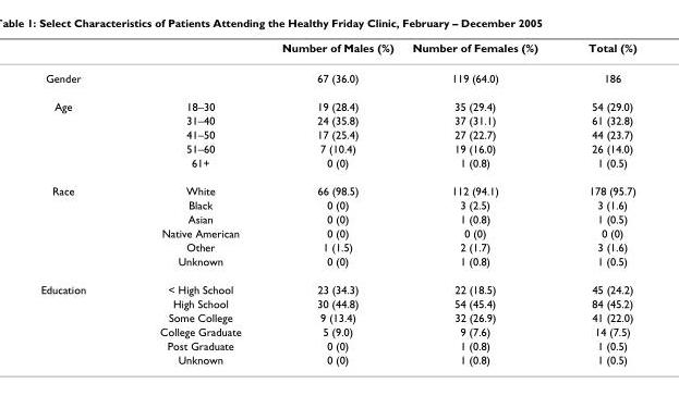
<table><thead><tr><td></td><td></td><td>Number of Males (%)</td><td>Number of Females (%)</td><td>Total (%)</td></tr></thead><tbody><tr><td>Gender</td><td></td><td>67 (36.0)</td><td>119 (64.0)</td><td>186</td></tr><tr><td rowspan="5">Age</td><td>18–30</td><td>19 (28.4)</td><td>35 (29.4)</td><td>54 (29.0)</td></tr><tr><td>31–40</td><td>24 (35.8)</td><td>37 (31.1)</td><td>61 (32.8)</td></tr><tr><td>41–50</td><td>17 (25.4)</td><td>27 (22.7)</td><td>44 (23.7)</td></tr><tr><td>51–60</td><td>7 (10.4)</td><td>19 (16.0)</td><td>26 (14.0)</td></tr><tr><td>61+</td><td>0 (0)</td><td>1 (0.8)</td><td>1 (0.5)</td></tr><tr><td rowspan="6">Race</td><td>White</td><td>66 (98.5)</td><td>112 (94.1)</td><td>178 (95.7)</td></tr><tr><td>Black</td><td>0 (0)</td><td>3 (2.5)</td><td>3 (1.6)</td></tr><tr><td>Asian</td><td>0 (0)</td><td>1 (0.8)</td><td>1 (0.5)</td></tr><tr><td>Native American</td><td>0 (0)</td><td>0 (0)</td><td>0 (0)</td></tr><tr><td>Other</td><td>1 (1.5)</td><td>2 (1.7)</td><td>3 (1.6)</td></tr><tr><td>Unknown</td><td>0 (0)</td><td>1 (0.8)</td><td>1 (0.5)</td></tr><tr><td rowspan="6">Education</td><td>&lt; High School</td><td>23 (34.3)</td><td>22 (18.5)</td><td>45 (24.2)</td></tr><tr><td>High School</td><td>30 (44.8)</td><td>54 (45.4)</td><td>84 (45.2)</td></tr><tr><td>Some College</td><td>9 (13.4)</td><td>32 (26.9)</td><td>41 (22.0)</td></tr><tr><td>College Graduate</td><td>5 (9.0)</td><td>9 (7.6)</td><td>14 (7.5)</td></tr><tr><td>Post Graduate</td><td>0 (0)</td><td>1 (0.8)</td><td>1 (0.5)</td></tr><tr><td>Unknown</td><td>0 (0)</td><td>1 (0.8)</td><td>1 (0.5)</td></tr></tbody></table>